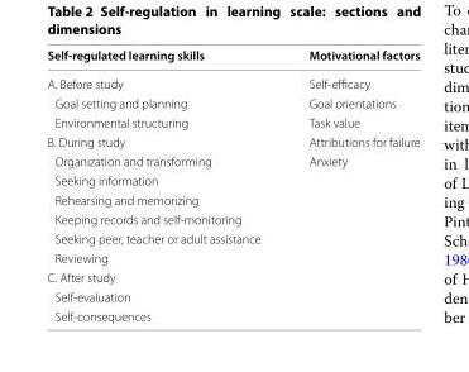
<table><thead><tr><td>Self‑regulated learning skills</td><td>Motivational factors</td></tr></thead><tbody><tr><td>A. Before study</td><td>Self-efficacy</td></tr><tr><td>Goal setting and planning</td><td>Goal orientations</td></tr><tr><td>Environmental structuring</td><td>Task value</td></tr><tr><td>B. During study</td><td>Attributions for failure</td></tr><tr><td>Organization and transforming</td><td>Anxiety</td></tr><tr><td colspan="2">Seeking information</td></tr><tr><td colspan="2">Rehearsing and memorizing</td></tr><tr><td colspan="2">Keeping records and self-monitoring</td></tr><tr><td colspan="2">Seeking peer, teacher or adult assistance</td></tr><tr><td colspan="2">Reviewing</td></tr><tr><td colspan="2">C. After study</td></tr><tr><td colspan="2">Self-evaluation</td></tr><tr><td>Self-consequences</td><td></td></tr></tbody></table>